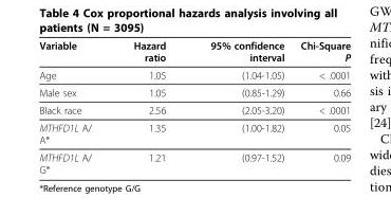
<table><thead><tr><td>Variable</td><td>Hazard ratio</td><td>95% confidence interval</td><td>Chi-Square P</td></tr></thead><tbody><tr><td>Age</td><td>1.05</td><td>(1.04-1.05)</td><td>&lt; .0001</td></tr><tr><td>Male sex</td><td>1.05</td><td>(0.85-1.29)</td><td>0.66</td></tr><tr><td>Black race</td><td>2.56</td><td>(2.05-3.20)</td><td>&lt; .0001</td></tr><tr><td>MTHFD1L A/ A*</td><td>1.35</td><td>(1.00-1.82)</td><td>0.05</td></tr><tr><td>MTHFD1L A/ G*</td><td>1.21</td><td>(0.97-1.52)</td><td>0.09</td></tr></tbody></table>